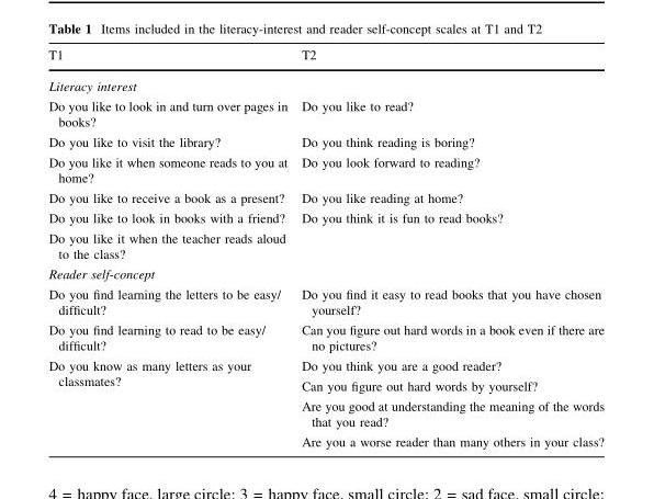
<table><thead><tr><td>T1</td><td>T2</td></tr></thead><tbody><tr><td colspan="2">Literacy interest</td></tr><tr><td>Do you like to look in and turn over pages in books?</td><td>Do you like to read?</td></tr><tr><td>Do you like to visit the library?</td><td>Do you think reading is boring?</td></tr><tr><td>Do you like it when someone reads to you at home?</td><td>Do you look forward to reading?</td></tr><tr><td>Do you like to receive a book as a present?</td><td>Do you like reading at home?</td></tr><tr><td>Do you like to look in books with a friend?</td><td>Do you think it is fun to read books?</td></tr><tr><td colspan="2">Do you like it when the teacher reads aloud to the class?</td></tr><tr><td colspan="2">Reader self-concept</td></tr><tr><td>Do you find learning the letters to be easy/ difficult?</td><td>Do you find it easy to read books that you have chosen yourself?</td></tr><tr><td>Do you find learning to read to be easy/ difficult?</td><td>Can you figure out hard words in a book even if there are no pictures?</td></tr><tr><td rowspan="4">Do you know as many letters as your classmates?</td><td>Do you think you are a good reader?</td></tr><tr><td>Can you figure out hard words by yourself?</td></tr><tr><td>Are you good at understanding the meaning of the words that you read?</td></tr><tr><td>Are you a worse reader than many others in your class?</td></tr></tbody></table>